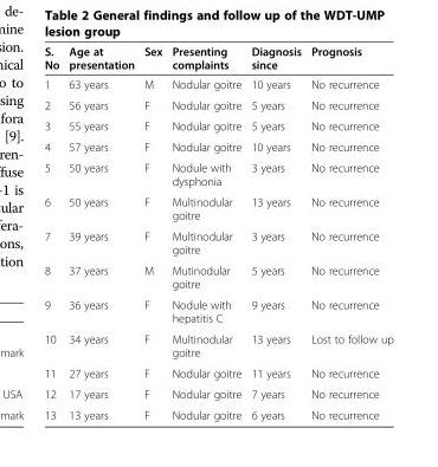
<table><thead><tr><td>S. No</td><td>Age at presentation</td><td>Sex</td><td>Presenting complaints</td><td>Diagnosis since</td><td>Prognosis</td></tr></thead><tbody><tr><td>1</td><td>63 years</td><td>M</td><td>Nodular goitre</td><td>10 years</td><td>No recurrence</td></tr><tr><td>2</td><td>56 years</td><td>F</td><td>Nodular goitre</td><td>5 years</td><td>No recurrence</td></tr><tr><td>3</td><td>55 years</td><td>F</td><td>Nodular goitre</td><td>5 years</td><td>No recurrence</td></tr><tr><td>4</td><td>57 years</td><td>F</td><td>Nodular goitre</td><td>10 years</td><td>No recurrence</td></tr><tr><td>5</td><td>50 years</td><td>F</td><td>Nodule with dysphonia</td><td>3 years</td><td>No recurrence</td></tr><tr><td>6</td><td>50 years</td><td>F</td><td>Multinodular goitre</td><td>13 years</td><td>No recurrence</td></tr><tr><td>7</td><td>39 years</td><td>F</td><td>Multinodular goitre</td><td>3 years</td><td>No recurrence</td></tr><tr><td>8</td><td>37 years</td><td>M</td><td>Mutinodular goitre</td><td>5 years</td><td>No recurrence</td></tr><tr><td>9</td><td>36 years</td><td>F</td><td>Nodule with hepatitis C</td><td>9 years</td><td>No recurrence</td></tr><tr><td>10</td><td>34 years</td><td>F</td><td>Multinodular goitre</td><td>13 years</td><td>Lost to follow up</td></tr><tr><td>11</td><td>27 years</td><td>F</td><td>Nodular goitre</td><td>11 years</td><td>No recurrence</td></tr><tr><td>12</td><td>17 years</td><td>F</td><td>Nodular goitre</td><td>7 years</td><td>No recurrence</td></tr><tr><td>13</td><td>13 years</td><td>F</td><td>Nodular goitre</td><td>6 years</td><td>No recurrence</td></tr></tbody></table>